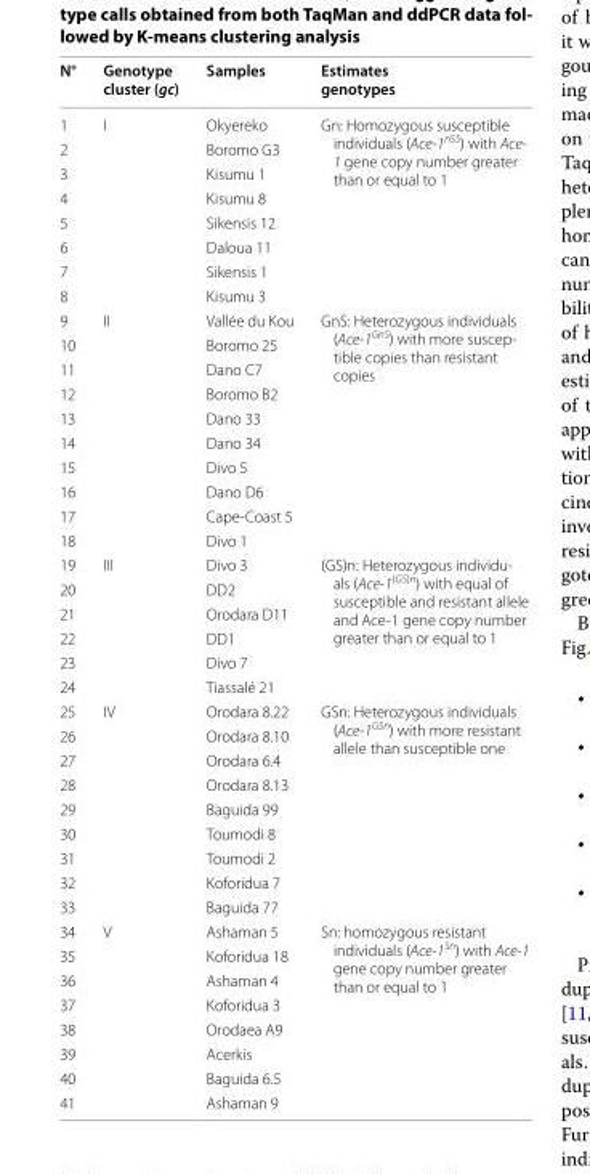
<table><thead><tr><td>N°</td><td>Genotype cluster (gc)</td><td>Samples</td><td>Estimates genotypes</td></tr></thead><tbody><tr><td>1</td><td rowspan="8">I</td><td>Okyereko</td><td rowspan="8">Gn: Homozygous susceptible individuals (Ace-1<sup>nSS</sup>) with Ace- 1 gene copy number greater than or equal to 1</td></tr><tr><td>2</td><td>Boromo G3</td></tr><tr><td>3</td><td>Kisumu 1</td></tr><tr><td>4</td><td>Kisumu 8</td></tr><tr><td>5</td><td>Sikensis 12</td></tr><tr><td>6</td><td>Daloua 11</td></tr><tr><td>7</td><td>Sikensis 1</td></tr><tr><td>8</td><td>Kisumu 3</td></tr><tr><td>9</td><td rowspan="10">II</td><td>Vallée du Kou</td><td rowspan="10">GnS: Heterozygous individuals (Ace-1GnS) with more suscep- tible copies than resistant copies</td></tr><tr><td>10</td><td>Boromo 25</td></tr><tr><td>11</td><td>Dano C7</td></tr><tr><td>12</td><td>Boromo B2</td></tr><tr><td>13</td><td>Dano 33</td></tr><tr><td>14</td><td>Dano 34</td></tr><tr><td>15</td><td>Divo 5</td></tr><tr><td>16</td><td>Dano D6</td></tr><tr><td>17</td><td>Cape-Coast 5</td></tr><tr><td>18</td><td>Divo 1</td></tr><tr><td>19</td><td rowspan="6">III</td><td>Divo 3</td><td rowspan="6">(GS)n: Heterozygous individu- als (Ace-1(GS)n) with equal of susceptible and resistant allele and Ace-1 gene copy number greater than or equal to 1</td></tr><tr><td>20</td><td>DD2</td></tr><tr><td>21</td><td>Orodara D11</td></tr><tr><td>22</td><td>DD1</td></tr><tr><td>23</td><td>Divo 7</td></tr><tr><td>24</td><td>Tiassalé 21</td></tr><tr><td>25</td><td rowspan="9">IV</td><td>Orodara 8.22</td><td rowspan="9">GSn: Heterozygous individuals (Ace-1<sup>GSn</sup>) with more resistant allele than susceptible one</td></tr><tr><td>26</td><td>Orodara 8.10</td></tr><tr><td>27</td><td>Orodara 6.4</td></tr><tr><td>28</td><td>Orodara 8.13</td></tr><tr><td>29</td><td>Baguida 99</td></tr><tr><td>30</td><td>Toumodi 8</td></tr><tr><td>31</td><td>Toumodi 2</td></tr><tr><td>32</td><td>Koforidua 7</td></tr><tr><td>33</td><td>Baguida 77</td></tr><tr><td>34</td><td rowspan="8">V</td><td>Ashaman 5</td><td rowspan="8">Sn: homozygous resistant individuals (Ace-1<sup>Sn</sup>) with Ace-1 gene copy number greater than or equal to 1</td></tr><tr><td>35</td><td>Koforidua 18</td></tr><tr><td>36</td><td>Ashaman 4</td></tr><tr><td>37</td><td>Koforidua 3</td></tr><tr><td>38</td><td>Orodaea A9</td></tr><tr><td>39</td><td>Acerkis</td></tr><tr><td>40</td><td>Baguida 6.5</td></tr><tr><td>41</td><td>Ashaman 9</td></tr></tbody></table>